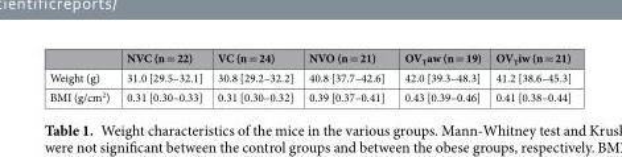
<table><thead><tr><td></td><td>NVC (n = 22)</td><td>VC (n = 24)</td><td>NVO (n = 21)</td><td>OV<sub>T</sub>aw (n = 19)</td><td>OV<sub>T</sub>iw (n = 21)</td></tr></thead><tbody><tr><td>Weight (g)</td><td>31.0 [29.5–32.1]</td><td>30.8 [29.2–32.2]</td><td>40.8 [37.7–42.6]</td><td>42.0 [39.3–48.3]</td><td>41.2 [38.6–45.3]</td></tr><tr><td>BMI (g/cm<sup>2</sup>)</td><td>0.31 [0.30–0.33]</td><td>0.31 [0.30–0.32]</td><td>0.39 [0.37–0.41]</td><td>0.43 [0.39–0.46]</td><td>0.41 [0.38–0.44]</td></tr></tbody></table>